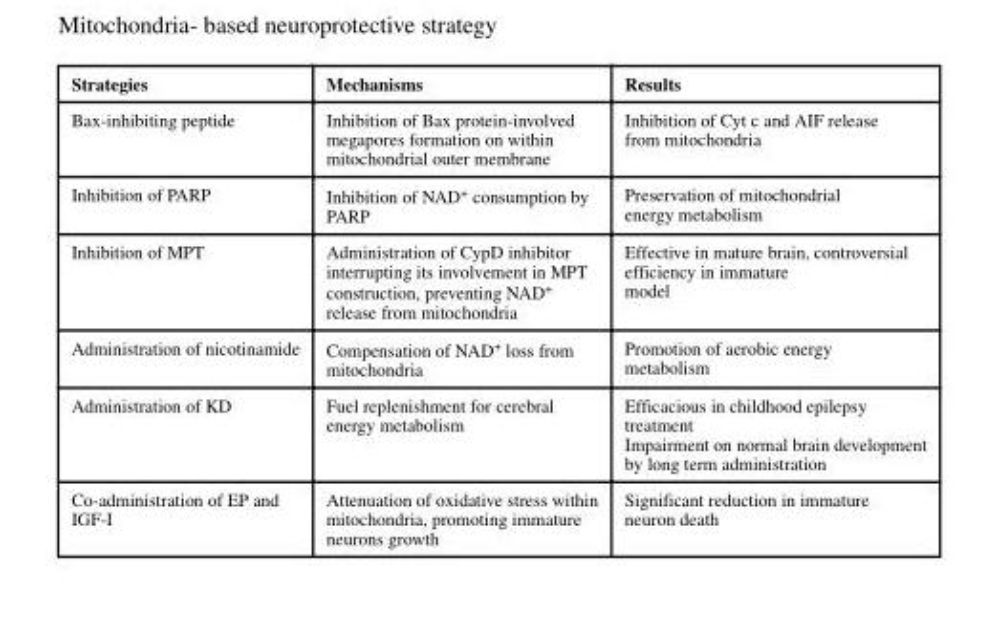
<table><thead><tr><td>Strategies</td><td>Mechanisms</td><td>Results</td></tr></thead><tbody><tr><td>Bax-inhibiting peptide</td><td>Inhibition of Bax protein-involved megapores formation on within mitochondrial outer membrane</td><td>Inhibition of Cyt c and AIF release from mitochondria</td></tr><tr><td>Inhibition of PARP</td><td>Inhibition of NAD<sup>+</sup> consumption by PARP</td><td>Preservation of mitochondrial energy metabolism</td></tr><tr><td>Inhibition of MPT</td><td>Administration of CypD inhibitor interrupting its involvement in MPT construction, preventing NAD<sup>+</sup> release from mitochondria</td><td>Effective in mature brain, controversial efficiency in immature model</td></tr><tr><td>Administration of nicotinamide</td><td>Compensation of NAD<sup>+</sup> loss from mitochondria</td><td>Promotion of aerobic energy metabolism</td></tr><tr><td>Administration of KD</td><td>Fuel replenishment for cerebral energy metabolism</td><td>Efficacious in childhood epilepsy treatment Impairment on normal brain development by long term administration</td></tr><tr><td>Co-administration of EP and IGF-I</td><td>Attenuation of oxidative stress within mitochondria, promoting immature neurons growth</td><td>Significant reduction in immature neuron death</td></tr></tbody></table>